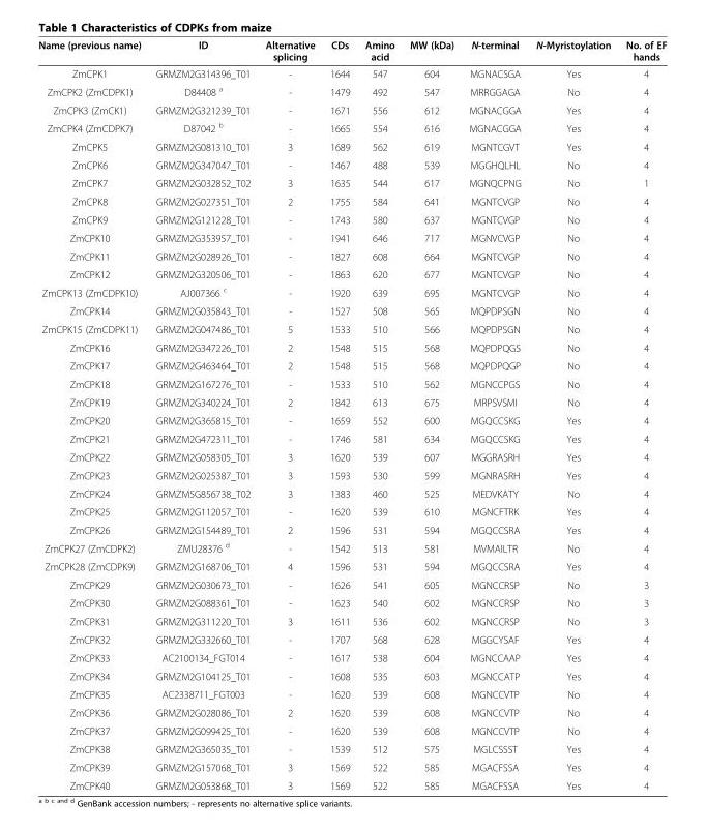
<table><thead><tr><td>Name (previous name)</td><td>ID</td><td>Alternative splicing</td><td>CDs</td><td>Amino acid</td><td>MW (kDa)</td><td>N-terminal</td><td>N-Myristoylation</td><td>No. of EF hands</td></tr></thead><tbody><tr><td>ZmCPK1</td><td>GRMZM2G314396_T01</td><td>-</td><td>1644</td><td>547</td><td>604</td><td>MGNACSGA</td><td>Yes</td><td>4</td></tr><tr><td>ZmCPK2 (ZmCDPK1)</td><td>D84408 <sup>a</sup></td><td>-</td><td>1479</td><td>492</td><td>547</td><td>MRRGGAGA</td><td>No</td><td>4</td></tr><tr><td>ZmCPK3 (ZmCK1)</td><td>GRMZM2G321239_T01</td><td>-</td><td>1671</td><td>556</td><td>612</td><td>MGNACGGA</td><td>Yes</td><td>4</td></tr><tr><td>ZmCPK4 (ZmCDPK7)</td><td>D87042 <sup>b</sup></td><td>-</td><td>1665</td><td>554</td><td>616</td><td>MGNACGGA</td><td>Yes</td><td>4</td></tr><tr><td>ZmCPK5</td><td>GRMZM2G081310_T01</td><td>3</td><td>1689</td><td>562</td><td>619</td><td>MGNTCGVT</td><td>Yes</td><td>4</td></tr><tr><td>ZmCPK6</td><td>GRMZM2G347047_T01</td><td>-</td><td>1467</td><td>488</td><td>539</td><td>MGGHQLHL</td><td>No</td><td>4</td></tr><tr><td>ZmCPK7</td><td>GRMZM2G032852_T02</td><td>3</td><td>1635</td><td>544</td><td>617</td><td>MGNQCPNG</td><td>No</td><td>1</td></tr><tr><td>ZmCPK8</td><td>GRMZM2G027351_T01</td><td>2</td><td>1755</td><td>584</td><td>641</td><td>MGNTCVGP</td><td>No</td><td>4</td></tr><tr><td>ZmCPK9</td><td>GRMZM2G121228_T01</td><td>-</td><td>1743</td><td>580</td><td>637</td><td>MGNTCVGP</td><td>No</td><td>4</td></tr><tr><td>ZmCPK10</td><td>GRMZM2G353957_T01</td><td>-</td><td>1941</td><td>646</td><td>717</td><td>MGNVCVGP</td><td>No</td><td>4</td></tr><tr><td>ZmCPK11</td><td>GRMZM2G028926_T01</td><td>-</td><td>1827</td><td>608</td><td>664</td><td>MGNTCVGP</td><td>No</td><td>4</td></tr><tr><td>ZmCPK12</td><td>GRMZM2G320506_T01</td><td>-</td><td>1863</td><td>620</td><td>677</td><td>MGNTCVGP</td><td>No</td><td>4</td></tr><tr><td>ZmCPK13 (ZmCDPK10)</td><td>AJ007366 <sup>c</sup></td><td>-</td><td>1920</td><td>639</td><td>695</td><td>MGNTCVGP</td><td>No</td><td>4</td></tr><tr><td>ZmCPK14</td><td>GRMZM2G035843_T01</td><td>-</td><td>1527</td><td>508</td><td>565</td><td>MQPDPSGN</td><td>No</td><td>4</td></tr><tr><td>ZmCPK15 (ZmCDPK11)</td><td>GRMZM2G047486_T01</td><td>5</td><td>1533</td><td>510</td><td>566</td><td>MQPDPSGN</td><td>No</td><td>4</td></tr><tr><td>ZmCPK16</td><td>GRMZM2G347226_T01</td><td>2</td><td>1548</td><td>515</td><td>568</td><td>MQPDPQGS</td><td>No</td><td>4</td></tr><tr><td>ZmCPK17</td><td>GRMZM2G463464_T01</td><td>2</td><td>1548</td><td>515</td><td>568</td><td>MQPDPQGP</td><td>No</td><td>4</td></tr><tr><td>ZmCPK18</td><td>GRMZM2G167276_T01</td><td>-</td><td>1533</td><td>510</td><td>562</td><td>MGNCCPGS</td><td>No</td><td>4</td></tr><tr><td>ZmCPK19</td><td>GRMZM2G340224_T01</td><td>2</td><td>1842</td><td>613</td><td>675</td><td>MRPSVSMI</td><td>No</td><td>4</td></tr><tr><td>ZmCPK20</td><td>GRMZM2G365815_T01</td><td>-</td><td>1659</td><td>552</td><td>600</td><td>MGQCCSKG</td><td>Yes</td><td>4</td></tr><tr><td>ZmCPK21</td><td>GRMZM2G472311_T01</td><td>-</td><td>1746</td><td>581</td><td>634</td><td>MGQCCSKG</td><td>Yes</td><td>4</td></tr><tr><td>ZmCPK22</td><td>GRMZM2G058305_T01</td><td>3</td><td>1620</td><td>539</td><td>607</td><td>MGGRASRH</td><td>Yes</td><td>4</td></tr><tr><td>ZmCPK23</td><td>GRMZM2G025387_T01</td><td>3</td><td>1593</td><td>530</td><td>599</td><td>MGNRASRH</td><td>Yes</td><td>4</td></tr><tr><td>ZmCPK24</td><td>GRMZM5G856738_T02</td><td>3</td><td>1383</td><td>460</td><td>525</td><td>MEDVKATY</td><td>No</td><td>4</td></tr><tr><td>ZmCPK25</td><td>GRMZM2G112057_T01</td><td>-</td><td>1620</td><td>539</td><td>610</td><td>MGNCFTRK</td><td>Yes</td><td>4</td></tr><tr><td>ZmCPK26</td><td>GRMZM2G154489_T01</td><td>2</td><td>1596</td><td>531</td><td>594</td><td>MGQCCSRA</td><td>Yes</td><td>4</td></tr><tr><td>ZmCPK27 (ZmCDPK2)</td><td>ZMU28376 <sup>d</sup></td><td>-</td><td>1542</td><td>513</td><td>581</td><td>MVMAILTR</td><td>No</td><td>4</td></tr><tr><td>ZmCPK28 (ZmCDPK9)</td><td>GRMZM2G168706_T01</td><td>4</td><td>1596</td><td>531</td><td>594</td><td>MGQCCSRA</td><td>Yes</td><td>4</td></tr><tr><td>ZmCPK29</td><td>GRMZM2G030673_T01</td><td>-</td><td>1626</td><td>541</td><td>605</td><td>MGNCCRSP</td><td>No</td><td>3</td></tr><tr><td>ZmCPK30</td><td>GRMZM2G088361_T01</td><td>-</td><td>1623</td><td>540</td><td>602</td><td>MGNCCRSP</td><td>No</td><td>3</td></tr><tr><td>ZmCPK31</td><td>GRMZM2G311220_T01</td><td>3</td><td>1611</td><td>536</td><td>602</td><td>MGNCCRSP</td><td>No</td><td>3</td></tr><tr><td>ZmCPK32</td><td>GRMZM2G332660_T01</td><td>-</td><td>1707</td><td>568</td><td>628</td><td>MGGCYSAF</td><td>Yes</td><td>4</td></tr><tr><td>ZmCPK33</td><td>AC2100134_FGT014</td><td>-</td><td>1617</td><td>538</td><td>604</td><td>MGNCCAAP</td><td>Yes</td><td>4</td></tr><tr><td>ZmCPK34</td><td>GRMZM2G104125_T01</td><td>-</td><td>1608</td><td>535</td><td>603</td><td>MGNCCATP</td><td>Yes</td><td>4</td></tr><tr><td>ZmCPK35</td><td>AC2338711_FGT003</td><td>-</td><td>1620</td><td>539</td><td>608</td><td>MGNCCVTP</td><td>No</td><td>4</td></tr><tr><td>ZmCPK36</td><td>GRMZM2G028086_T01</td><td>2</td><td>1620</td><td>539</td><td>608</td><td>MGNCCVTP</td><td>No</td><td>4</td></tr><tr><td>ZmCPK37</td><td>GRMZM2G099425_T01</td><td>-</td><td>1620</td><td>539</td><td>608</td><td>MGNCCVTP</td><td>No</td><td>4</td></tr><tr><td>ZmCPK38</td><td>GRMZM2G365035_T01</td><td>-</td><td>1539</td><td>512</td><td>575</td><td>MGLCSSST</td><td>Yes</td><td>4</td></tr><tr><td>ZmCPK39</td><td>GRMZM2G157068_T01</td><td>3</td><td>1569</td><td>522</td><td>585</td><td>MGACFSSA</td><td>Yes</td><td>4</td></tr><tr><td>ZmCPK40</td><td>GRMZM2G053868_T01</td><td>3</td><td>1569</td><td>522</td><td>585</td><td>MGACFSSA</td><td>Yes</td><td>4</td></tr></tbody></table>